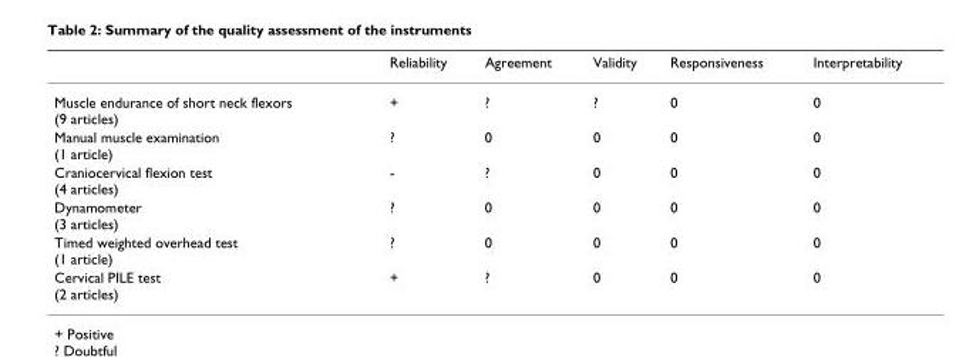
<table><thead><tr><td></td><td>Reliability</td><td>Agreement</td><td>Validity</td><td>Responsiveness</td><td>Interpretability</td></tr></thead><tbody><tr><td>Muscle endurance of short neck flexors (9 articles)</td><td>+</td><td>?</td><td>?</td><td>0</td><td>0</td></tr><tr><td>Manual muscle examination (1 article)</td><td>?</td><td>0</td><td>0</td><td>0</td><td>0</td></tr><tr><td>Craniocervical flexion test (4 articles)</td><td>-</td><td>?</td><td>0</td><td>0</td><td>0</td></tr><tr><td>Dynamometer (3 articles)</td><td>?</td><td>0</td><td>0</td><td>0</td><td>0</td></tr><tr><td>Timed weighted overhead test (1 article)</td><td>?</td><td>0</td><td>0</td><td>0</td><td>0</td></tr><tr><td>Cervical PILE test (2 articles)</td><td>+</td><td>?</td><td>0</td><td>0</td><td>0</td></tr></tbody></table>